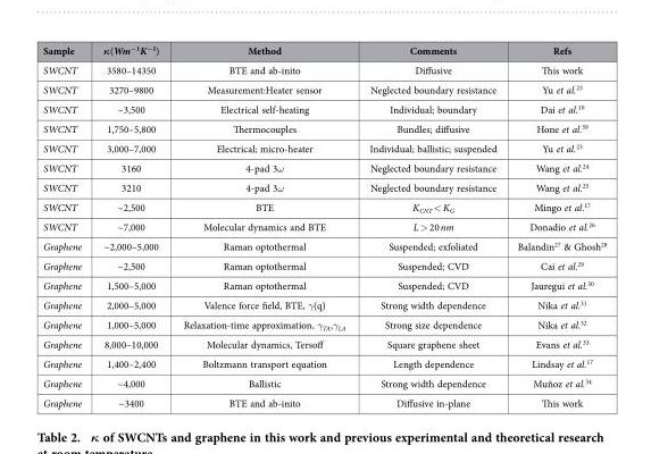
<table><thead><tr><td>Sample</td><td>κ(Wm<sup>−1</sup>K<sup>−1</sup>)</td><td>Method</td><td>Comments</td><td>Refs</td></tr></thead><tbody><tr><td>SWCNT</td><td>3580–14350</td><td>BTE and ab-inito</td><td>Diffusive</td><td>This work</td></tr><tr><td>SWCNT</td><td>3270–9800</td><td>Measurement:Heater sensor</td><td>Neglected boundary resistance</td><td>Yu et al.<sup>23</sup></td></tr><tr><td>SWCNT</td><td>~3,500</td><td>Electrical self-heating</td><td>Individual; boundary</td><td>Dai et al.<sup>10</sup></td></tr><tr><td>SWCNT</td><td>1,750–5,800</td><td>Thermocouples</td><td>Bundles; diffusive</td><td>Hone et al.<sup>39</sup></td></tr><tr><td>SWCNT</td><td>3,000–7,000</td><td>Electrical; micro-heater</td><td>Individual; ballistic; suspended</td><td>Yu et al.<sup>23</sup></td></tr><tr><td>SWCNT</td><td>3160</td><td>4-pad 3ω</td><td>Neglected boundary resistance</td><td>Wang et al.<sup>24</sup></td></tr><tr><td>SWCNT</td><td>3210</td><td>4-pad 3ω</td><td>Neglected boundary resistance</td><td>Wang et al.<sup>25</sup></td></tr><tr><td>SWCNT</td><td>~2,500</td><td>BTE</td><td>K<sub>CNT</sub> &lt; K<sub>G</sub></td><td>Mingo et al.<sup>17</sup></td></tr><tr><td>SWCNT</td><td>~7,000</td><td>Molecular dynamics and BTE</td><td>L &gt; 20 nm</td><td>Donadio et al.<sup>26</sup></td></tr><tr><td>Graphene</td><td>~2,000–5,000</td><td>Raman optothermal</td><td>Suspended; exfoliated</td><td>Balandin<sup>27</sup> &amp; Ghosh<sup>28</sup></td></tr><tr><td>Graphene</td><td>~2,500</td><td>Raman optothermal</td><td>Suspended; CVD</td><td>Cai et al.<sup>29</sup></td></tr><tr><td>Graphene</td><td>1,500–5,000</td><td>Raman optothermal</td><td>Suspended; CVD</td><td>Jauregui et al.<sup>30</sup></td></tr><tr><td>Graphene</td><td>2,000–5,000</td><td>Valence force field, BTE, γ(q)</td><td>Strong width dependence</td><td>Nika et al.<sup>31</sup></td></tr><tr><td>Graphene</td><td>1,000–5,000</td><td>Relaxation-time approximation, γ<sub>TA</sub>,γ<sub>LA</sub></td><td>Strong size dependence</td><td>Nika et al.<sup>32</sup></td></tr><tr><td>Graphene</td><td>8,000–10,000</td><td>Molecular dynamics, Tersoff</td><td>Square graphene sheet</td><td>Evans et al.<sup>33</sup></td></tr><tr><td>Graphene</td><td>1,400–2,400</td><td>Boltzmann transport equation</td><td>Length dependence</td><td>Lindsay et al.<sup>17</sup></td></tr><tr><td>Graphene</td><td>~4,000</td><td>Ballistic</td><td>Strong width dependence</td><td>Muñoz et al.<sup>34</sup></td></tr><tr><td>Graphene</td><td>~3400</td><td>BTE and ab-inito</td><td>Diffusive in-plane</td><td>This work</td></tr></tbody></table>